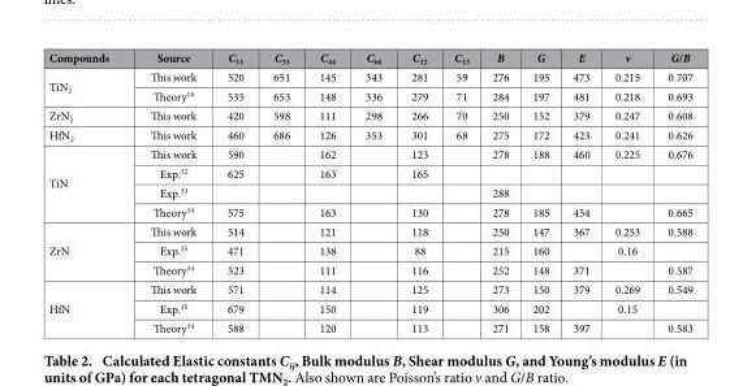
<table><thead><tr><td>Compounds</td><td>Source</td><td>C<sub>11</sub></td><td>C<sub>33</sub></td><td>C<sub>44</sub></td><td>C<sub>66</sub></td><td>C<sub>12</sub></td><td>C<sub>13</sub></td><td>B</td><td>G</td><td>E</td><td>v</td><td>G/B</td></tr></thead><tbody><tr><td rowspan="2">TiN<sub>2</sub></td><td>This work</td><td>520</td><td>651</td><td>145</td><td>343</td><td>281</td><td>59</td><td>276</td><td>195</td><td>473</td><td>0.215</td><td>0.707</td></tr><tr><td>Theory<sup>16</sup></td><td>535</td><td>653</td><td>148</td><td>336</td><td>279</td><td>71</td><td>284</td><td>197</td><td>481</td><td>0.218</td><td>0.693</td></tr><tr><td>ZrN<sub>2</sub></td><td>This work</td><td>420</td><td>598</td><td>111</td><td>298</td><td>266</td><td>70</td><td>250</td><td>152</td><td>379</td><td>0.247</td><td>0.608</td></tr><tr><td>HfN<sub>2</sub></td><td>This work</td><td>460</td><td>686</td><td>126</td><td>353</td><td>301</td><td>68</td><td>275</td><td>172</td><td>423</td><td>0.241</td><td>0.626</td></tr><tr><td rowspan="4">TiN</td><td>This work</td><td>590</td><td></td><td>162</td><td></td><td>123</td><td></td><td>278</td><td>188</td><td>460</td><td>0.225</td><td>0.676</td></tr><tr><td>Exp.<sup>32</sup></td><td>625</td><td></td><td>163</td><td></td><td>165</td><td></td><td></td><td></td><td></td><td></td><td></td></tr><tr><td>Exp.<sup>33</sup></td><td></td><td></td><td></td><td></td><td></td><td></td><td>288</td><td></td><td></td><td></td><td></td></tr><tr><td>Theory<sup>34</sup></td><td>575</td><td></td><td>163</td><td></td><td>130</td><td></td><td>278</td><td>185</td><td>454</td><td></td><td>0.665</td></tr><tr><td rowspan="3">ZrN</td><td>This work</td><td>514</td><td></td><td>121</td><td></td><td>118</td><td></td><td>250</td><td>147</td><td>367</td><td>0.253</td><td>0.588</td></tr><tr><td>Exp.<sup>35</sup></td><td>471</td><td></td><td>138</td><td></td><td>88</td><td></td><td>215</td><td>160</td><td></td><td>0.16</td><td></td></tr><tr><td>Theory<sup>34</sup></td><td>523</td><td></td><td>111</td><td></td><td>116</td><td></td><td>252</td><td>148</td><td>371</td><td></td><td>0.587</td></tr><tr><td rowspan="3">HfN</td><td>This work</td><td>571</td><td></td><td>114</td><td></td><td>125</td><td></td><td>273</td><td>150</td><td>379</td><td>0.269</td><td>0.549</td></tr><tr><td>Exp.<sup>35</sup></td><td>679</td><td></td><td>150</td><td></td><td>119</td><td></td><td>306</td><td>202</td><td></td><td>0.15</td><td></td></tr><tr><td>Theory<sup>34</sup></td><td>588</td><td></td><td>120</td><td></td><td>113</td><td></td><td>271</td><td>158</td><td>397</td><td></td><td>0.583</td></tr></tbody></table>